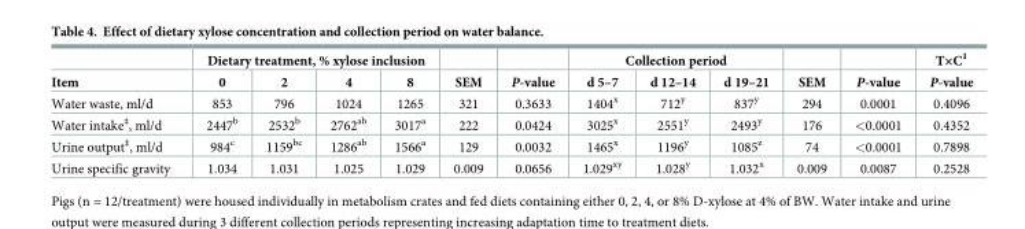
<table><thead><tr><td rowspan="2">Item</td><td colspan="4">Dietary treatment, % xylose inclusion</td><td rowspan="2">SEM</td><td rowspan="2">P-value</td><td colspan="3">Collection period</td><td rowspan="2">SEM</td><td rowspan="2">P-value</td><td rowspan="2">T×C<sup>1</sup> P-value</td></tr><tr><td>0</td><td>2</td><td>4</td><td>8</td><td>d 5–7</td><td>d 12–14</td><td>d 19–21</td></tr></thead><tbody><tr><td>Water waste, ml/d</td><td>853</td><td>796</td><td>1024</td><td>1265</td><td>321</td><td>0.3633</td><td>1404<sup>x</sup></td><td>712<sup>y</sup></td><td>837<sup>y</sup></td><td>294</td><td>0.0001</td><td>0.4096</td></tr><tr><td>Water intake<sup>‡</sup>, ml/d</td><td>2447<sup>b</sup></td><td>2532<sup>b</sup></td><td>2762<sup>ab</sup></td><td>3017<sup>a</sup></td><td>222</td><td>0.0424</td><td>3025<sup>x</sup></td><td>2551<sup>y</sup></td><td>2493<sup>y</sup></td><td>176</td><td>&lt;0.0001</td><td>0.4352</td></tr><tr><td>Urine output<sup>‡</sup>, ml/d</td><td>984<sup>c</sup></td><td>1159<sup>bc</sup></td><td>1286<sup>ab</sup></td><td>1566<sup>a</sup></td><td>129</td><td>0.0032</td><td>1465<sup>x</sup></td><td>1196<sup>y</sup></td><td>1085<sup>z</sup></td><td>74</td><td>&lt;0.0001</td><td>0.7898</td></tr><tr><td>Urine specific gravity</td><td>1.034</td><td>1.031</td><td>1.025</td><td>1.029</td><td>0.009</td><td>0.0656</td><td>1.029<sup>xy</sup></td><td>1.028<sup>y</sup></td><td>1.032<sup>x</sup></td><td>0.009</td><td>0.0087</td><td>0.2528</td></tr></tbody></table>